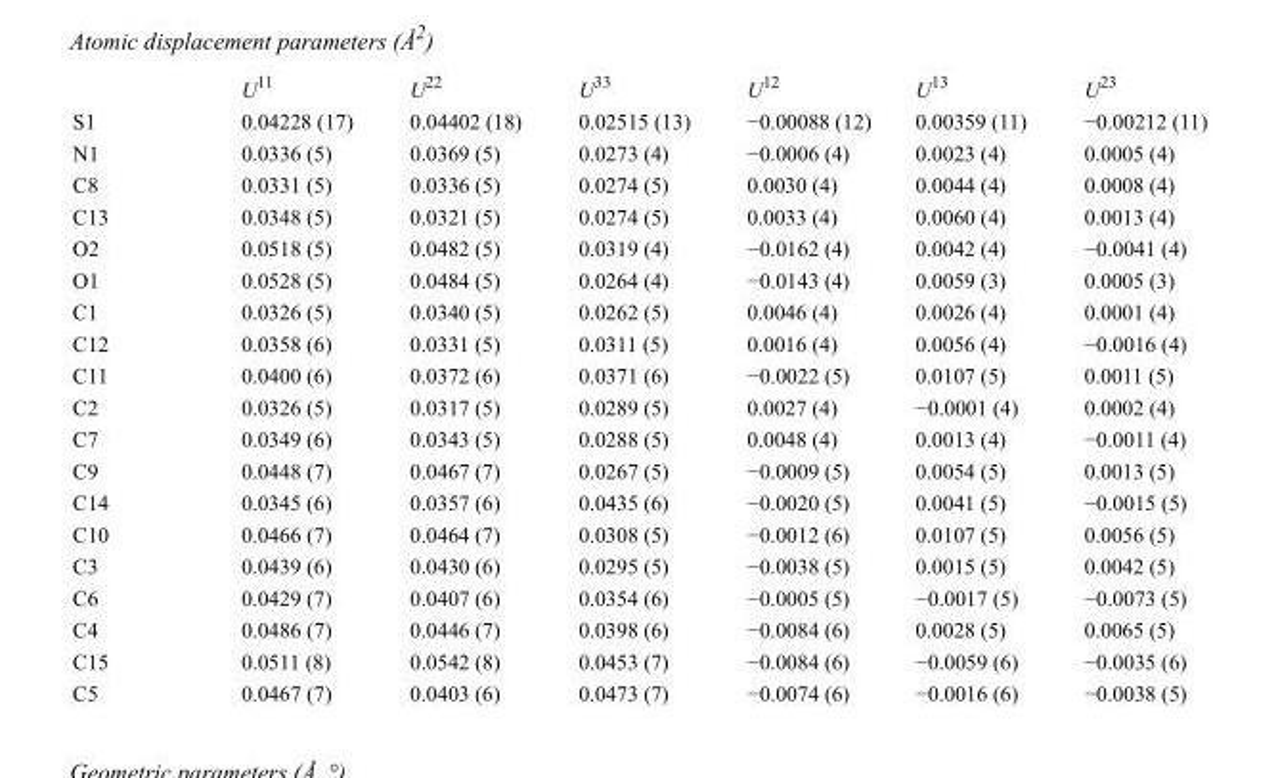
<table><thead><tr><td></td><td>U<sup>11</sup></td><td>U<sup>22</sup></td><td>U<sup>33</sup></td><td>U<sup>12</sup></td><td>U<sup>13</sup></td><td>U<sup>23</sup></td></tr></thead><tbody><tr><td>S1</td><td>0.04228 (17)</td><td>0.04402 (18)</td><td>0.02515 (13)</td><td>−0.00088 (12)</td><td>0.00359 (11)</td><td>−0.00212 (11)</td></tr><tr><td>N1</td><td>0.0336 (5)</td><td>0.0369 (5)</td><td>0.0273 (4)</td><td>−0.0006 (4)</td><td>0.0023 (4)</td><td>0.0005 (4)</td></tr><tr><td>C8</td><td>0.0331 (5)</td><td>0.0336 (5)</td><td>0.0274 (5)</td><td>0.0030 (4)</td><td>0.0044 (4)</td><td>0.0008 (4)</td></tr><tr><td>C13</td><td>0.0348 (5)</td><td>0.0321 (5)</td><td>0.0274 (5)</td><td>0.0033 (4)</td><td>0.0060 (4)</td><td>0.0013 (4)</td></tr><tr><td>O2</td><td>0.0518 (5)</td><td>0.0482 (5)</td><td>0.0319 (4)</td><td>−0.0162 (4)</td><td>0.0042 (4)</td><td>−0.0041 (4)</td></tr><tr><td>O1</td><td>0.0528 (5)</td><td>0.0484 (5)</td><td>0.0264 (4)</td><td>−0.0143 (4)</td><td>0.0059 (3)</td><td>0.0005 (3)</td></tr><tr><td>C1</td><td>0.0326 (5)</td><td>0.0340 (5)</td><td>0.0262 (5)</td><td>0.0046 (4)</td><td>0.0026 (4)</td><td>0.0001 (4)</td></tr><tr><td>C12</td><td>0.0358 (6)</td><td>0.0331 (5)</td><td>0.0311 (5)</td><td>0.0016 (4)</td><td>0.0056 (4)</td><td>−0.0016 (4)</td></tr><tr><td>C11</td><td>0.0400 (6)</td><td>0.0372 (6)</td><td>0.0371 (6)</td><td>−0.0022 (5)</td><td>0.0107 (5)</td><td>0.0011 (5)</td></tr><tr><td>C2</td><td>0.0326 (5)</td><td>0.0317 (5)</td><td>0.0289 (5)</td><td>0.0027 (4)</td><td>−0.0001 (4)</td><td>0.0002 (4)</td></tr><tr><td>C7</td><td>0.0349 (6)</td><td>0.0343 (5)</td><td>0.0288 (5)</td><td>0.0048 (4)</td><td>0.0013 (4)</td><td>−0.0011 (4)</td></tr><tr><td>C9</td><td>0.0448 (7)</td><td>0.0467 (7)</td><td>0.0267 (5)</td><td>−0.0009 (5)</td><td>0.0054 (5)</td><td>0.0013 (5)</td></tr><tr><td>C14</td><td>0.0345 (6)</td><td>0.0357 (6)</td><td>0.0435 (6)</td><td>−0.0020 (5)</td><td>0.0041 (5)</td><td>−0.0015 (5)</td></tr><tr><td>C10</td><td>0.0466 (7)</td><td>0.0464 (7)</td><td>0.0308 (5)</td><td>−0.0012 (6)</td><td>0.0107 (5)</td><td>0.0056 (5)</td></tr><tr><td>C3</td><td>0.0439 (6)</td><td>0.0430 (6)</td><td>0.0295 (5)</td><td>−0.0038 (5)</td><td>0.0015 (5)</td><td>0.0042 (5)</td></tr><tr><td>C6</td><td>0.0429 (7)</td><td>0.0407 (6)</td><td>0.0354 (6)</td><td>−0.0005 (5)</td><td>−0.0017 (5)</td><td>−0.0073 (5)</td></tr><tr><td>C4</td><td>0.0486 (7)</td><td>0.0446 (7)</td><td>0.0398 (6)</td><td>−0.0084 (6)</td><td>0.0028 (5)</td><td>0.0065 (5)</td></tr><tr><td>C15</td><td>0.0511 (8)</td><td>0.0542 (8)</td><td>0.0453 (7)</td><td>−0.0084 (6)</td><td>−0.0059 (6)</td><td>−0.0035 (6)</td></tr><tr><td>C5</td><td>0.0467 (7)</td><td>0.0403 (6)</td><td>0.0473 (7)</td><td>−0.0074 (6)</td><td>−0.0016 (6)</td><td>−0.0038 (5)</td></tr></tbody></table>